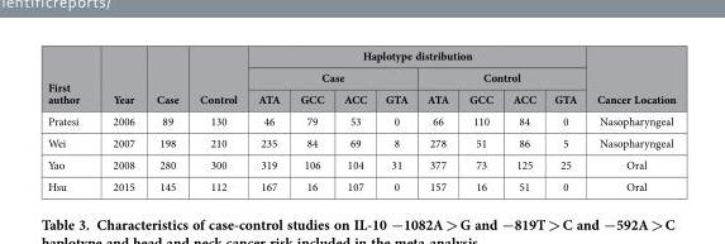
<table><thead><tr><td rowspan="3">First author</td><td rowspan="3">Year</td><td rowspan="3">Case</td><td rowspan="3">Control</td><td colspan="8">Haplotype distribution</td><td rowspan="3">Cancer Location</td></tr><tr><td colspan="4">Case</td><td colspan="4">Control</td></tr><tr><td>ATA</td><td>GCC</td><td>ACC</td><td>GTA</td><td>ATA</td><td>GCC</td><td>ACC</td><td>GTA</td></tr></thead><tbody><tr><td>Pratesi</td><td>2006</td><td>89</td><td>130</td><td>46</td><td>79</td><td>53</td><td>0</td><td>66</td><td>110</td><td>84</td><td>0</td><td>Nasopharyngeal</td></tr><tr><td>Wei</td><td>2007</td><td>198</td><td>210</td><td>235</td><td>84</td><td>69</td><td>8</td><td>278</td><td>51</td><td>86</td><td>5</td><td>Nasopharyngeal</td></tr><tr><td>Yao</td><td>2008</td><td>280</td><td>300</td><td>319</td><td>106</td><td>104</td><td>31</td><td>377</td><td>73</td><td>125</td><td>25</td><td>Oral</td></tr><tr><td>Hsu</td><td>2015</td><td>145</td><td>112</td><td>167</td><td>16</td><td>107</td><td>0</td><td>157</td><td>16</td><td>51</td><td>0</td><td>Oral</td></tr></tbody></table>